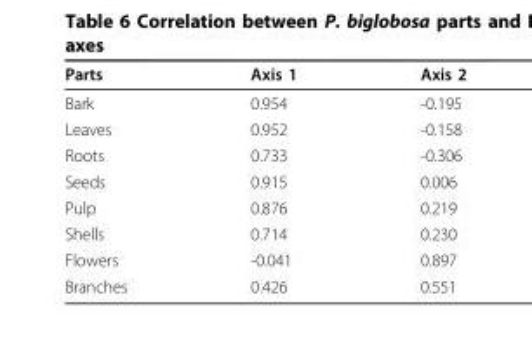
<table><thead><tr><td>Parts</td><td>Axis 1</td><td>Axis 2</td></tr></thead><tbody><tr><td>Bark</td><td>0.954</td><td>-0.195</td></tr><tr><td>Leaves</td><td>0.952</td><td>-0.158</td></tr><tr><td>Roots</td><td>0.733</td><td>-0.306</td></tr><tr><td>Seeds</td><td>0.915</td><td>0.006</td></tr><tr><td>Pulp</td><td>0.876</td><td>0.219</td></tr><tr><td>Shells</td><td>0.714</td><td>0.230</td></tr><tr><td>Flowers</td><td>-0.041</td><td>0.897</td></tr><tr><td>Branches</td><td>0.426</td><td>0.551</td></tr></tbody></table>